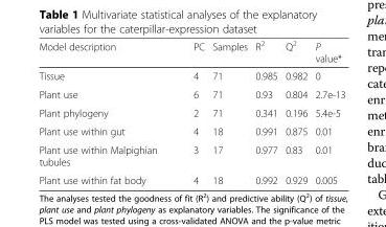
<table><thead><tr><td>Model description</td><td>PC</td><td>Samples</td><td>R<sup>2</sup></td><td>Q<sup>2</sup></td><td>P value*</td></tr></thead><tbody><tr><td>Tissue</td><td>4</td><td>71</td><td>0.985</td><td>0.982</td><td>0</td></tr><tr><td>Plant use</td><td>6</td><td>71</td><td>0.93</td><td>0.804</td><td>2.7e-13</td></tr><tr><td>Plant phylogeny</td><td>2</td><td>71</td><td>0.341</td><td>0.196</td><td>5.4e-5</td></tr><tr><td>Plant use within gut</td><td>4</td><td>18</td><td>0.991</td><td>0.875</td><td>0.01</td></tr><tr><td>Plant use within Malpighian tubules</td><td>3</td><td>17</td><td>0.977</td><td>0.83</td><td>0.01</td></tr><tr><td>Plant use within fat body</td><td>4</td><td>18</td><td>0.992</td><td>0.929</td><td>0.005</td></tr></tbody></table>